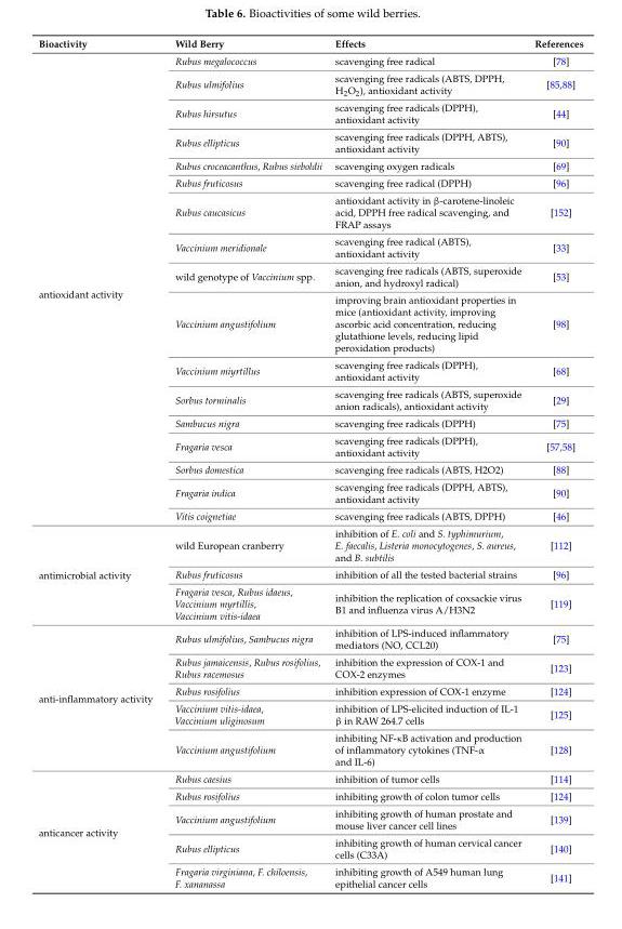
<table><thead><tr><td>Bioactivity</td><td>Wild Berry</td><td>Effects</td><td>References</td></tr></thead><tbody><tr><td rowspan="17">antioxidant activity</td><td>Rubus megalococcus</td><td>scavenging free radical</td><td>[78]</td></tr><tr><td>Rubus ulmifolius</td><td>scavenging free radicals (ABTS, DPPH, H<sub>2</sub>O<sub>2</sub>), antioxidant activity</td><td>[85,88]</td></tr><tr><td>Rubus hirsutus</td><td>scavenging free radicals (DPPH), antioxidant activity</td><td>[44]</td></tr><tr><td>Rubus ellipticus</td><td>scavenging free radicals (DPPH, ABTS), antioxidant activity</td><td>[90]</td></tr><tr><td>Rubus croceacanthus, Rubus sieboldii</td><td>scavenging oxygen radicals</td><td>[69]</td></tr><tr><td>Rubus fruticosus</td><td>scavenging free radical (DPPH)</td><td>[96]</td></tr><tr><td>Rubus caucasicus</td><td>antioxidant activity in β-carotene-linoleic acid, DPPH free radical scavenging, and FRAP assays</td><td>[152]</td></tr><tr><td>Vaccinium meridionale</td><td>scavenging free radical (ABTS), antioxidant activity</td><td>[33]</td></tr><tr><td>wild genotype of Vaccinium spp.</td><td>scavenging free radicals (ABTS, superoxide anion, and hydroxyl radical)</td><td>[53]</td></tr><tr><td>Vaccinium angustifolium</td><td>improving brain antioxidant properties in mice (antioxidant activity, improving ascorbic acid concentration, reducing glutathione levels, reducing lipid peroxidation products)</td><td>[98]</td></tr><tr><td>Vaccinium miyrtillus</td><td>scavenging free radicals (DPPH), antioxidant activity</td><td>[68]</td></tr><tr><td>Sorbus torminalis</td><td>scavenging free radicals (ABTS, superoxide anion radicals), antioxidant activity</td><td>[29]</td></tr><tr><td>Sambucus nigra</td><td>scavenging free radicals (DPPH)</td><td>[75]</td></tr><tr><td>Fragaria vesca</td><td>scavenging free radicals (DPPH), antioxidant activity</td><td>[57,58]</td></tr><tr><td>Sorbus domestica</td><td>scavenging free radicals (ABTS, H2O2)</td><td>[88]</td></tr><tr><td>Fragaria indica</td><td>scavenging free radicals (DPPH, ABTS), antioxidant activity</td><td>[90]</td></tr><tr><td>Vitis coignetiae</td><td>scavenging free radicals (ABTS, DPPH)</td><td>[46]</td></tr><tr><td rowspan="3">antimicrobial activity</td><td>wild European cranberry</td><td>inhibition of E. coli and S. typhimurium, E. faecalis, Listeria monocytogenes, S. aureus, and B. subtilis</td><td>[112]</td></tr><tr><td>Rubus fruticosus</td><td>inhibition of all the tested bacterial strains</td><td>[96]</td></tr><tr><td>Fragaria vesca, Rubus idaeus, Vaccinium myrtillis, Vaccinium vitis-idaea</td><td>inhibition the replication of coxsackie virus B1 and influenza virus A/H3N2</td><td>[119]</td></tr><tr><td rowspan="5">anti-inflammatory activity</td><td>Rubus ulmifolius, Sambucus nigra</td><td>inhibition of LPS-induced inflammatory mediators (NO, CCL20)</td><td>[75]</td></tr><tr><td>Rubus jamaicensis, Rubus rosifolius, Rubus racemosus</td><td>inhibition the expression of COX-1 and COX-2 enzymes</td><td>[123]</td></tr><tr><td>Rubus rosifolius</td><td>inhibition expression of COX-1 enzyme</td><td>[124]</td></tr><tr><td>Vaccinium vitis-idaea, Vaccinium uliginosum</td><td>inhibition of LPS-elicited induction of IL-1 β in RAW 264.7 cells</td><td>[125]</td></tr><tr><td>Vaccinium angustifolium</td><td>inhibiting NF-κB activation and production of inflammatory cytokines (TNF-α and IL-6)</td><td>[128]</td></tr><tr><td rowspan="5">anticancer activity</td><td>Rubus caesius</td><td>inhibition of tumor cells</td><td>[114]</td></tr><tr><td>Rubus rosifolius</td><td>inhibiting growth of colon tumor cells</td><td>[124]</td></tr><tr><td>Vaccinium angustifolium</td><td>inhibiting growth of human prostate and mouse liver cancer cell lines</td><td>[139]</td></tr><tr><td>Rubus ellipticus</td><td>inhibiting growth of human cervical cancer cells (C33A)</td><td>[140]</td></tr><tr><td>Fragaria virginiana, F. chiloensis, F. xananassa</td><td>inhibiting growth of A549 human lung epithelial cancer cells</td><td>[141]</td></tr></tbody></table>